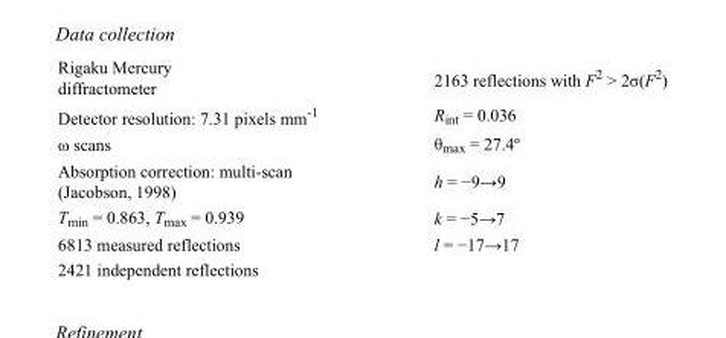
<table><tbody><tr><td>Rigaku Mercury diffractometer</td><td>2163 reflections with F<sup>2</sup> &gt; 2σ(F<sup>2</sup>)</td></tr><tr><td>Detector resolution: 7.31 pixels mm<sup>-1</sup></td><td>R<sub>int</sub> = 0.036</td></tr><tr><td>ω scans</td><td>θ<sub>max</sub> = 27.4º</td></tr><tr><td>Absorption correction: multi-scan (Jacobson, 1998)</td><td>h = −9→9</td></tr><tr><td>T<sub>min</sub> = 0.863, T<sub>max</sub> = 0.939</td><td>k = −5→7</td></tr><tr><td>6813 measured reflections</td><td>l = −17→17</td></tr><tr><td>2421 independent reflections</td><td></td></tr></tbody></table>